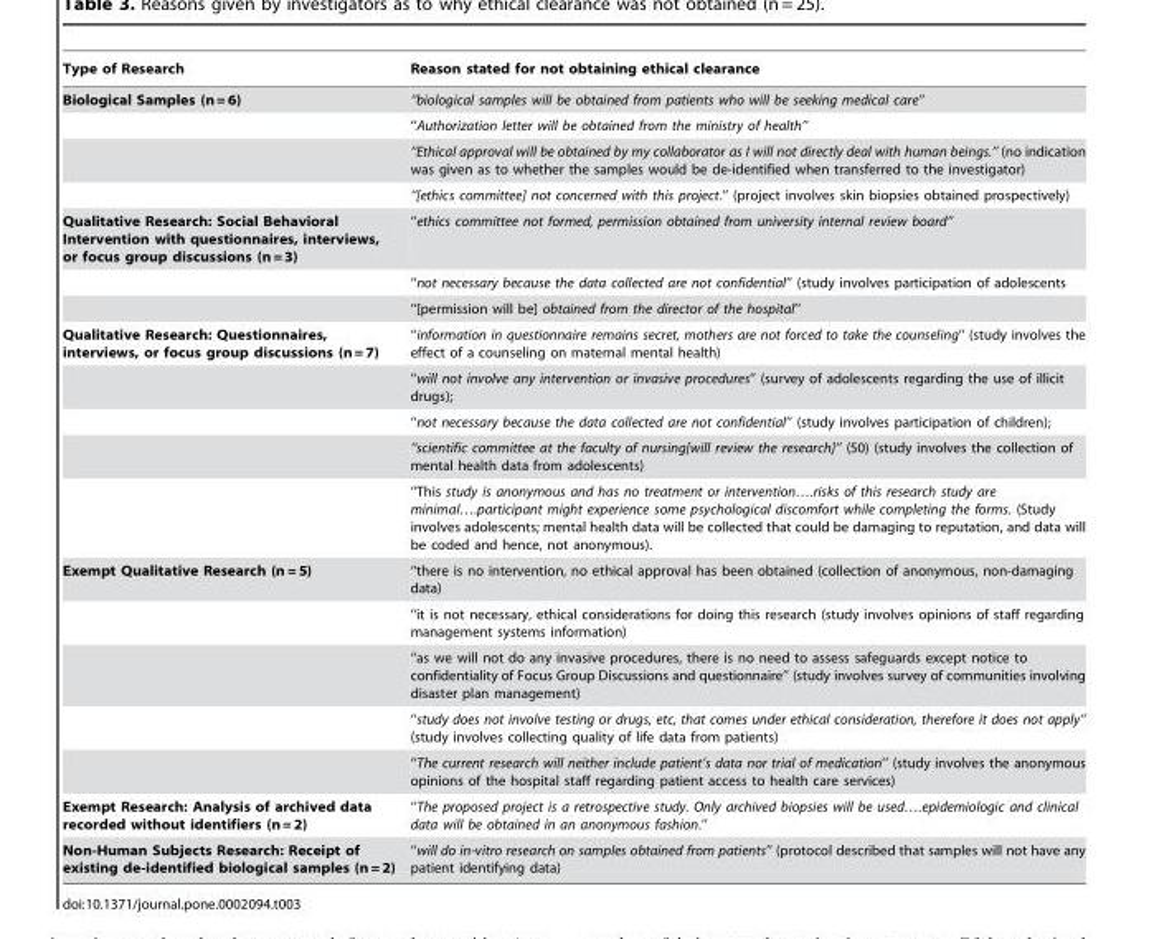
<table><thead><tr><td>Type of Research</td><td>Reason stated for not obtaining ethical clearance</td></tr></thead><tbody><tr><td rowspan="4">Biological Samples (n = 6)</td><td>‘‘biological samples will be obtained from patients who will be seeking medical care’’</td></tr><tr><td>‘‘Authorization letter will be obtained from the ministry of health’’</td></tr><tr><td>‘‘Ethical approval will be obtained by my collaborator as I will not directly deal with human beings.’’ (no indication was given as to whether the samples would be de-identified when transferred to the investigator)</td></tr><tr><td>‘‘[ethics committee] not concerned with this project.’’ (project involves skin biopsies obtained prospectively)</td></tr><tr><td rowspan="3">Qualitative Research: Social Behavioral Intervention with questionnaires, interviews, or focus group discussions (n = 3)</td><td>‘‘ethics committee not formed, permission obtained from university internal review board’’</td></tr><tr><td>‘‘not necessary because the data collected are not confidential’’ (study involves participation of adolescents</td></tr><tr><td>‘‘[permission will be] obtained from the director of the hospital’’</td></tr><tr><td rowspan="5">Qualitative Research: Questionnaires, interviews, or focus group discussions (n = 7)</td><td>‘‘information in questionnaire remains secret, mothers are not forced to take the counseling’’ (study involves the effect of a counseling on maternal mental health)</td></tr><tr><td>‘‘will not involve any intervention or invasive procedures’’ (survey of adolescents regarding the use of illicit drugs);</td></tr><tr><td>‘‘not necessary because the data collected are not confidential’’ (study involves participation of children);</td></tr><tr><td>‘‘scientific committee at the faculty of nursing[will review the research]’’ (50) (study involves the collection of mental health data from adolescents)</td></tr><tr><td>‘‘This study is anonymous and has no treatment or intervention….risks of this research study are minimal….participant might experience some psychological discomfort while completing the forms. (Study involves adolescents; mental health data will be collected that could be damaging to reputation, and data will be coded and hence, not anonymous).</td></tr><tr><td rowspan="5">Exempt Qualitative Research (n = 5)</td><td>‘‘there is no intervention, no ethical approval has been obtained (collection of anonymous, non-damaging data)</td></tr><tr><td>‘‘it is not necessary, ethical considerations for doing this research (study involves opinions of staff regarding management systems information)</td></tr><tr><td>‘‘as we will not do any invasive procedures, there is no need to assess safeguards except notice to confidentiality of Focus Group Discussions and questionnaire’’ (study involves survey of communities involving disaster plan management)</td></tr><tr><td>‘‘study does not involve testing or drugs, etc, that comes under ethical consideration, therefore it does not apply’’ (study involves collecting quality of life data from patients)</td></tr><tr><td>‘‘The current research will neither include patient’s data nor trial of medication’’ (study involves the anonymous opinions of the hospital staff regarding patient access to health care services)</td></tr><tr><td>Exempt Research: Analysis of archived data recorded without identifiers (n = 2)</td><td>‘‘The proposed project is a retrospective study. Only archived biopsies will be used….epidemiologic and clinical data will be obtained in an anonymous fashion.’’</td></tr><tr><td>Non-Human Subjects Research: Receipt of existing de-identified biological samples (n = 2)</td><td>‘‘will do in-vitro research on samples obtained from patients’’ (protocol described that samples will not have any patient identifying data)</td></tr></tbody></table>